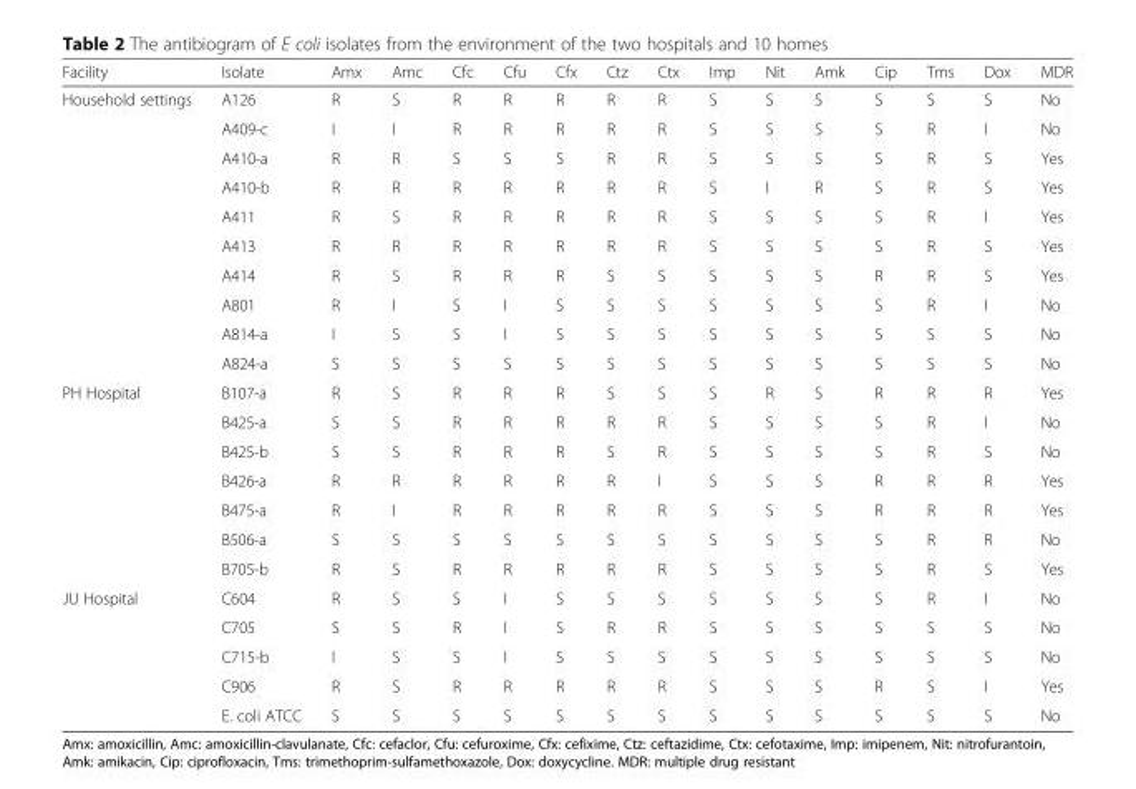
<table><thead><tr><td>Facility</td><td>Isolate</td><td>Amx</td><td>Amc</td><td>Cfc</td><td>Cfu</td><td>Cfx</td><td>Ctz</td><td>Ctx</td><td>Imp</td><td>Nit</td><td>Amk</td><td>Cip</td><td>Tms</td><td>Dox</td><td>MDR</td></tr></thead><tbody><tr><td rowspan="10">Household settings</td><td>A126</td><td>R</td><td>S</td><td>R</td><td>R</td><td>R</td><td>R</td><td>R</td><td>S</td><td>S</td><td>S</td><td>S</td><td>S</td><td>S</td><td>No</td></tr><tr><td>A409-c</td><td>I</td><td>I</td><td>R</td><td>R</td><td>R</td><td>R</td><td>R</td><td>S</td><td>S</td><td>S</td><td>S</td><td>R</td><td>I</td><td>No</td></tr><tr><td>A410-a</td><td>R</td><td>R</td><td>S</td><td>S</td><td>S</td><td>R</td><td>R</td><td>S</td><td>S</td><td>S</td><td>S</td><td>R</td><td>S</td><td>Yes</td></tr><tr><td>A410-b</td><td>R</td><td>R</td><td>R</td><td>R</td><td>R</td><td>R</td><td>R</td><td>S</td><td>I</td><td>R</td><td>S</td><td>R</td><td>S</td><td>Yes</td></tr><tr><td>A411</td><td>R</td><td>S</td><td>R</td><td>R</td><td>R</td><td>R</td><td>R</td><td>S</td><td>S</td><td>S</td><td>S</td><td>R</td><td>I</td><td>Yes</td></tr><tr><td>A413</td><td>R</td><td>R</td><td>R</td><td>R</td><td>R</td><td>R</td><td>R</td><td>S</td><td>S</td><td>S</td><td>S</td><td>R</td><td>S</td><td>Yes</td></tr><tr><td>A414</td><td>R</td><td>S</td><td>R</td><td>R</td><td>R</td><td>S</td><td>S</td><td>S</td><td>S</td><td>S</td><td>R</td><td>R</td><td>S</td><td>Yes</td></tr><tr><td>A801</td><td>R</td><td>I</td><td>S</td><td>I</td><td>S</td><td>S</td><td>S</td><td>S</td><td>S</td><td>S</td><td>S</td><td>R</td><td>I</td><td>No</td></tr><tr><td>A814-a</td><td>I</td><td>S</td><td>S</td><td>I</td><td>S</td><td>S</td><td>S</td><td>S</td><td>S</td><td>S</td><td>S</td><td>S</td><td>S</td><td>No</td></tr><tr><td>A824-a</td><td>S</td><td>S</td><td>S</td><td>S</td><td>S</td><td>S</td><td>S</td><td>S</td><td>S</td><td>S</td><td>S</td><td>S</td><td>S</td><td>No</td></tr><tr><td rowspan="7">PH Hospital</td><td>B107-a</td><td>R</td><td>S</td><td>R</td><td>R</td><td>R</td><td>S</td><td>S</td><td>S</td><td>R</td><td>S</td><td>R</td><td>R</td><td>R</td><td>Yes</td></tr><tr><td>B425-a</td><td>S</td><td>S</td><td>R</td><td>R</td><td>R</td><td>R</td><td>R</td><td>S</td><td>S</td><td>S</td><td>S</td><td>R</td><td>I</td><td>No</td></tr><tr><td>B425-b</td><td>S</td><td>S</td><td>R</td><td>R</td><td>R</td><td>S</td><td>R</td><td>S</td><td>S</td><td>S</td><td>S</td><td>R</td><td>S</td><td>No</td></tr><tr><td>B426-a</td><td>R</td><td>R</td><td>R</td><td>R</td><td>R</td><td>R</td><td>I</td><td>S</td><td>S</td><td>S</td><td>R</td><td>R</td><td>R</td><td>Yes</td></tr><tr><td>B475-a</td><td>R</td><td>I</td><td>R</td><td>R</td><td>R</td><td>R</td><td>R</td><td>S</td><td>S</td><td>S</td><td>R</td><td>R</td><td>R</td><td>Yes</td></tr><tr><td>B506-a</td><td>S</td><td>S</td><td>S</td><td>S</td><td>S</td><td>S</td><td>S</td><td>S</td><td>S</td><td>S</td><td>S</td><td>R</td><td>R</td><td>No</td></tr><tr><td>B705-b</td><td>R</td><td>S</td><td>R</td><td>R</td><td>R</td><td>R</td><td>R</td><td>S</td><td>S</td><td>S</td><td>S</td><td>R</td><td>S</td><td>Yes</td></tr><tr><td rowspan="5">JU Hospital</td><td>C604</td><td>R</td><td>S</td><td>S</td><td>I</td><td>S</td><td>S</td><td>S</td><td>S</td><td>S</td><td>S</td><td>S</td><td>R</td><td>I</td><td>No</td></tr><tr><td>C705</td><td>S</td><td>S</td><td>R</td><td>I</td><td>S</td><td>R</td><td>R</td><td>S</td><td>S</td><td>S</td><td>S</td><td>S</td><td>S</td><td>No</td></tr><tr><td>C715-b</td><td>I</td><td>S</td><td>S</td><td>I</td><td>S</td><td>S</td><td>S</td><td>S</td><td>S</td><td>S</td><td>S</td><td>S</td><td>S</td><td>No</td></tr><tr><td>C906</td><td>R</td><td>S</td><td>R</td><td>R</td><td>R</td><td>R</td><td>R</td><td>S</td><td>S</td><td>S</td><td>R</td><td>S</td><td>I</td><td>Yes</td></tr><tr><td>E. coli ATCC</td><td>S</td><td>S</td><td>S</td><td>S</td><td>S</td><td>S</td><td>S</td><td>S</td><td>S</td><td>S</td><td>S</td><td>S</td><td>S</td><td>No</td></tr></tbody></table>